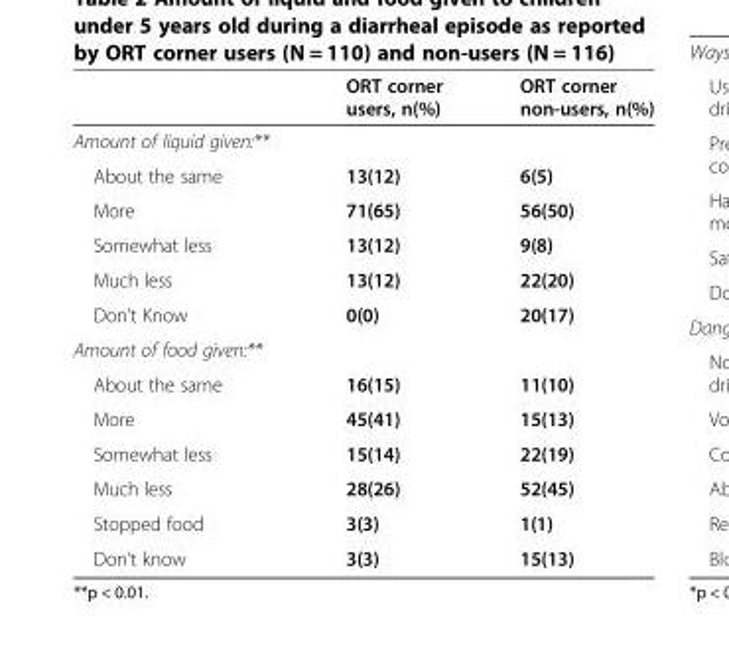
<table><thead><tr><td></td><td>ORT corner users, n(%)</td><td>ORT corner non-users, n(%)</td></tr></thead><tbody><tr><td colspan="3">Amount of liquid given:**</td></tr><tr><td>About the same</td><td>13(12)</td><td>6(5)</td></tr><tr><td>More</td><td>71(65)</td><td>56(50)</td></tr><tr><td>Somewhat less</td><td>13(12)</td><td>9(8)</td></tr><tr><td>Much less</td><td>13(12)</td><td>22(20)</td></tr><tr><td>Don’t Know</td><td>0(0)</td><td>20(17)</td></tr><tr><td colspan="3">Amount of food given:**</td></tr><tr><td>About the same</td><td>16(15)</td><td>11(10)</td></tr><tr><td>More</td><td>45(41)</td><td>15(13)</td></tr><tr><td>Somewhat less</td><td>15(14)</td><td>22(19)</td></tr><tr><td>Much less</td><td>28(26)</td><td>52(45)</td></tr><tr><td>Stopped food</td><td>3(3)</td><td>1(1)</td></tr><tr><td>Don’t know</td><td>3(3)</td><td>15(13)</td></tr></tbody></table>